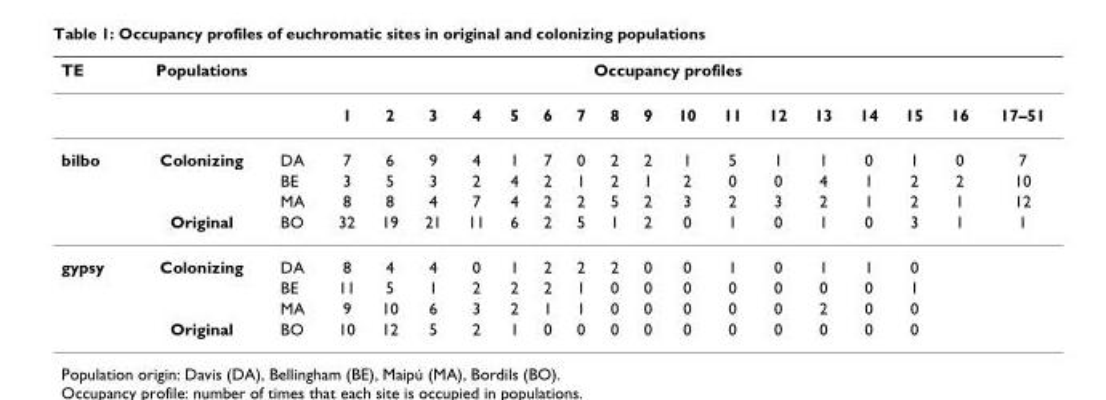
<table><thead><tr><td rowspan="2">TE</td><td rowspan="2">Populations</td><td colspan="18">Occupancy profiles</td></tr><tr><td></td><td>1</td><td>2</td><td>3</td><td>4</td><td>5</td><td>6</td><td>7</td><td>8</td><td>9</td><td>10</td><td>11</td><td>12</td><td>13</td><td>14</td><td>15</td><td>16</td><td>17–51</td></tr></thead><tbody><tr><td rowspan="4">bilbo</td><td>Colonizing</td><td>DA</td><td>7</td><td>6</td><td>9</td><td>4</td><td>1</td><td>7</td><td>0</td><td>2</td><td>2</td><td>1</td><td>5</td><td>1</td><td>1</td><td>0</td><td>1</td><td>0</td><td>7</td></tr><tr><td></td><td>BE</td><td>3</td><td>5</td><td>3</td><td>2</td><td>4</td><td>2</td><td>1</td><td>2</td><td>1</td><td>2</td><td>0</td><td>0</td><td>4</td><td>1</td><td>2</td><td>2</td><td>10</td></tr><tr><td></td><td>MA</td><td>8</td><td>8</td><td>4</td><td>7</td><td>4</td><td>2</td><td>2</td><td>5</td><td>2</td><td>3</td><td>2</td><td>3</td><td>2</td><td>1</td><td>2</td><td>1</td><td>12</td></tr><tr><td>Original</td><td>BO</td><td>32</td><td>19</td><td>21</td><td>11</td><td>6</td><td>2</td><td>5</td><td>1</td><td>2</td><td>0</td><td>1</td><td>0</td><td>1</td><td>0</td><td>3</td><td>1</td><td>1</td></tr><tr><td rowspan="4">gypsy</td><td>Colonizing</td><td>DA</td><td>8</td><td>4</td><td>4</td><td>0</td><td>1</td><td>2</td><td>2</td><td>2</td><td>0</td><td>0</td><td>1</td><td>0</td><td>1</td><td>1</td><td>0</td><td></td><td></td></tr><tr><td></td><td>BE</td><td>11</td><td>5</td><td>1</td><td>2</td><td>2</td><td>2</td><td>1</td><td>0</td><td>0</td><td>0</td><td>0</td><td>0</td><td>0</td><td>0</td><td>1</td><td></td><td></td></tr><tr><td></td><td>MA</td><td>9</td><td>10</td><td>6</td><td>3</td><td>2</td><td>1</td><td>1</td><td>0</td><td>0</td><td>0</td><td>0</td><td>0</td><td>2</td><td>0</td><td>0</td><td></td><td></td></tr><tr><td>Original</td><td>BO</td><td>10</td><td>12</td><td>5</td><td>2</td><td>1</td><td>0</td><td>0</td><td>0</td><td>0</td><td>0</td><td>0</td><td>0</td><td>0</td><td>0</td><td>0</td><td></td><td></td></tr></tbody></table>